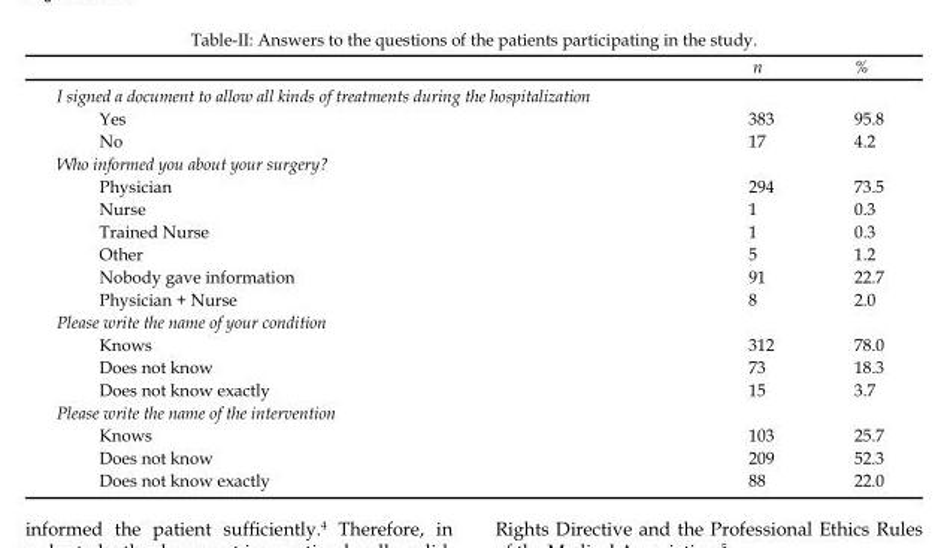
<table><thead><tr><td></td><td>n</td><td>%</td></tr></thead><tbody><tr><td colspan="3">I signed a document to allow all kinds of treatments during the hospitalization</td></tr><tr><td>Yes</td><td>383</td><td>95.8</td></tr><tr><td>No</td><td>17</td><td>4.2</td></tr><tr><td colspan="3">Who informed you about your surgery?</td></tr><tr><td>Physician</td><td>294</td><td>73.5</td></tr><tr><td>Nurse</td><td>1</td><td>0.3</td></tr><tr><td>Trained Nurse</td><td>1</td><td>0.3</td></tr><tr><td>Other</td><td>5</td><td>1.2</td></tr><tr><td>Nobody gave information</td><td>91</td><td>22.7</td></tr><tr><td>Physician + Nurse</td><td>8</td><td>2.0</td></tr><tr><td colspan="3">Please write the name of your condition</td></tr><tr><td>Knows</td><td>312</td><td>78.0</td></tr><tr><td>Does not know</td><td>73</td><td>18.3</td></tr><tr><td>Does not know exactly</td><td>15</td><td>3.7</td></tr><tr><td colspan="3">Please write the name of the intervention</td></tr><tr><td>Knows</td><td>103</td><td>25.7</td></tr><tr><td>Does not know</td><td>209</td><td>52.3</td></tr><tr><td>Does not know exactly</td><td>88</td><td>22.0</td></tr></tbody></table>